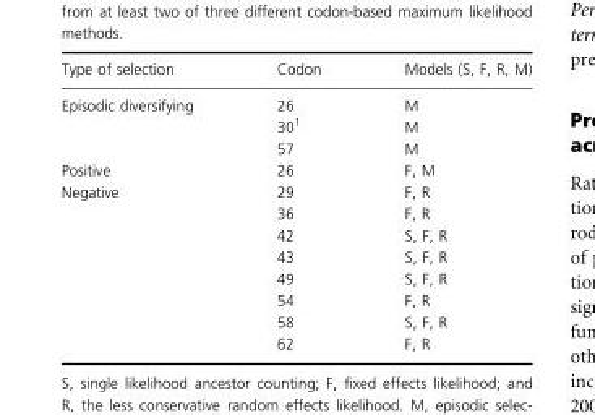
<table><thead><tr><td>Type of selection</td><td>Codon</td><td>Models (S, F, R, M)</td></tr></thead><tbody><tr><td rowspan="3">Episodic diversifying</td><td>26</td><td>M</td></tr><tr><td>30<sup>1</sup></td><td>M</td></tr><tr><td>57</td><td>M</td></tr><tr><td>Positive</td><td>26</td><td>F, M</td></tr><tr><td rowspan="8">Negative</td><td>29</td><td>F, R</td></tr><tr><td>36</td><td>F, R</td></tr><tr><td>42</td><td>S, F, R</td></tr><tr><td>43</td><td>S, F, R</td></tr><tr><td>49</td><td>S, F, R</td></tr><tr><td>54</td><td>F, R</td></tr><tr><td>58</td><td>S, F, R</td></tr><tr><td>62</td><td>F, R</td></tr></tbody></table>